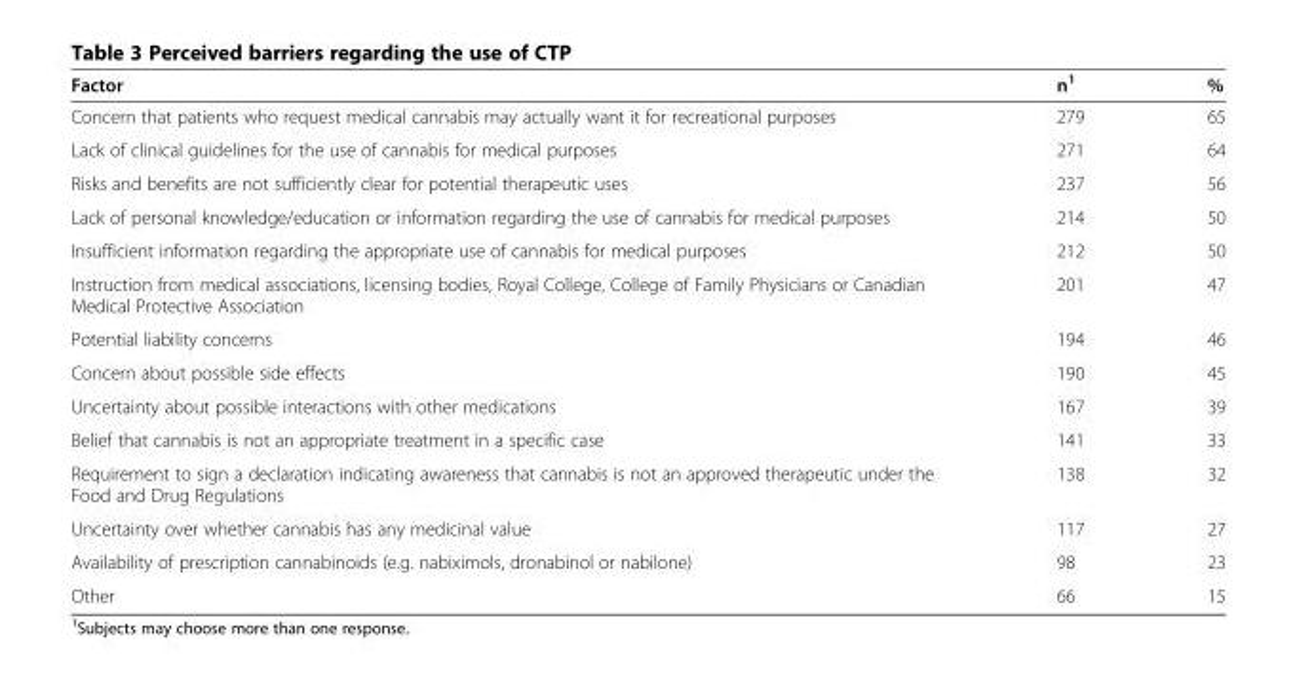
<table><thead><tr><td>Factor</td><td>n<sup>1</sup></td><td>%</td></tr></thead><tbody><tr><td>Concern that patients who request medical cannabis may actually want it for recreational purposes</td><td>279</td><td>65</td></tr><tr><td>Lack of clinical guidelines for the use of cannabis for medical purposes</td><td>271</td><td>64</td></tr><tr><td>Risks and benefits are not sufficiently clear for potential therapeutic uses</td><td>237</td><td>56</td></tr><tr><td>Lack of personal knowledge/education or information regarding the use of cannabis for medical purposes</td><td>214</td><td>50</td></tr><tr><td>Insufficient information regarding the appropriate use of cannabis for medical purposes</td><td>212</td><td>50</td></tr><tr><td>Instruction from medical associations, licensing bodies, Royal College, College of Family Physicians or Canadian Medical Protective Association</td><td>201</td><td>47</td></tr><tr><td>Potential liability concerns</td><td>194</td><td>46</td></tr><tr><td>Concern about possible side effects</td><td>190</td><td>45</td></tr><tr><td>Uncertainty about possible interactions with other medications</td><td>167</td><td>39</td></tr><tr><td>Belief that cannabis is not an appropriate treatment in a specific case</td><td>141</td><td>33</td></tr><tr><td>Requirement to sign a declaration indicating awareness that cannabis is not an approved therapeutic under the Food and Drug Regulations</td><td>138</td><td>32</td></tr><tr><td>Uncertainty over whether cannabis has any medicinal value</td><td>117</td><td>27</td></tr><tr><td>Availability of prescription cannabinoids (e.g. nabiximols, dronabinol or nabilone)</td><td>98</td><td>23</td></tr><tr><td>Other</td><td>66</td><td>15</td></tr></tbody></table>